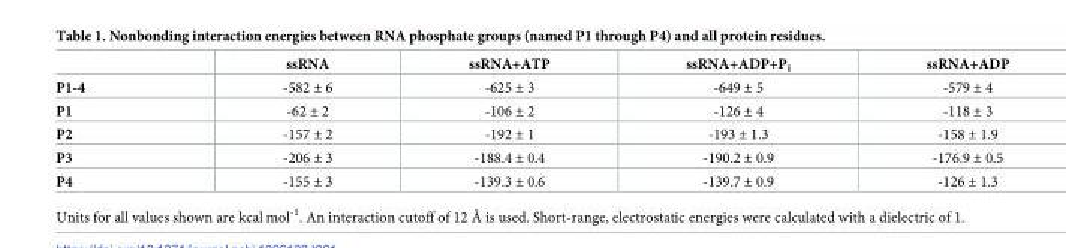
<table><thead><tr><td></td><td>ssRNA</td><td>ssRNA+ATP</td><td>ssRNA+ADP+P<sub>i</sub></td><td>ssRNA+ADP</td></tr></thead><tbody><tr><td>P1-4</td><td>-582 ± 6</td><td>-625 ± 3</td><td>-649 ± 5</td><td>-579 ± 4</td></tr><tr><td>P1</td><td>-62 ± 2</td><td>-106 ± 2</td><td>-126 ± 4</td><td>-118 ± 3</td></tr><tr><td>P2</td><td>-157 ± 2</td><td>-192 ± 1</td><td>-193 ± 1.3</td><td>-158 ± 1.9</td></tr><tr><td>P3</td><td>-206 ± 3</td><td>-188.4 ± 0.4</td><td>-190.2 ± 0.9</td><td>-176.9 ± 0.5</td></tr><tr><td>P4</td><td>-155 ± 3</td><td>-139.3 ± 0.6</td><td>-139.7 ± 0.9</td><td>-126 ± 1.3</td></tr></tbody></table>